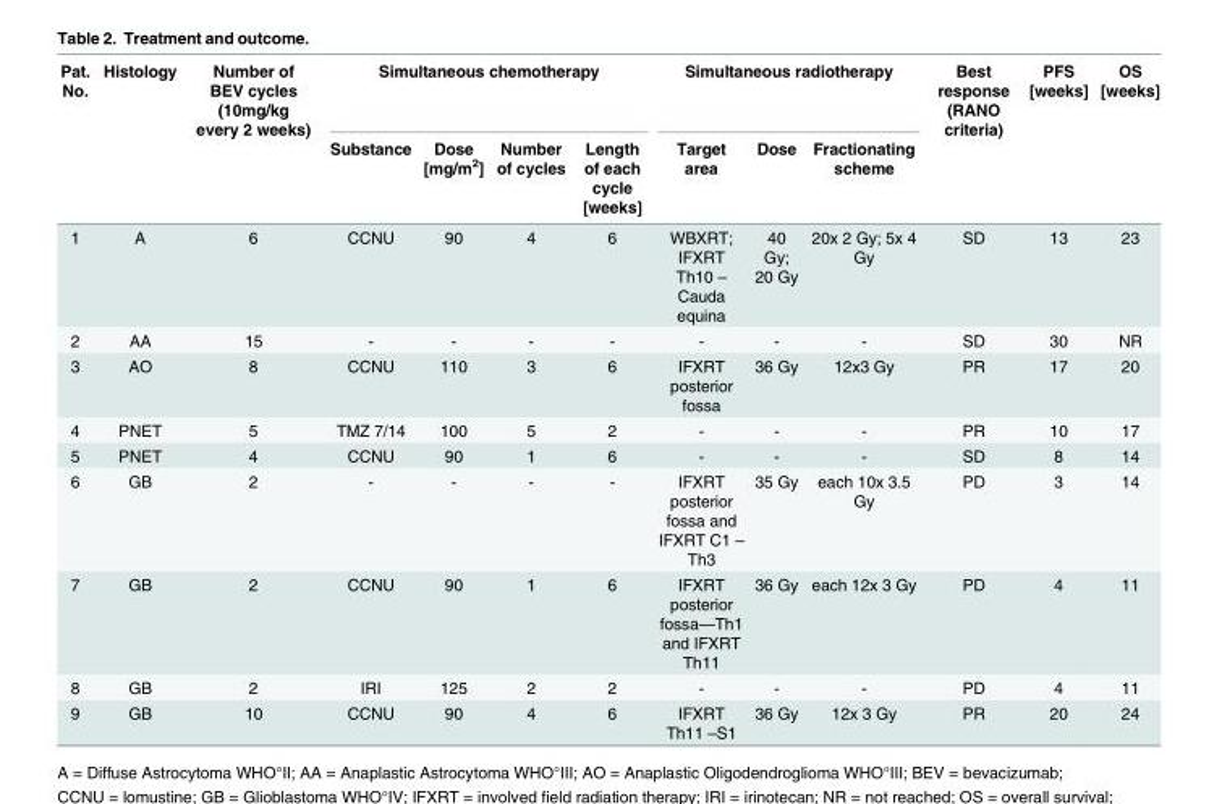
<table><thead><tr><td rowspan="2">Pat. No.</td><td rowspan="2">Histology</td><td rowspan="2">Number of BEV cycles (10mg/kg every 2 weeks)</td><td colspan="4">Simultaneous chemotherapy</td><td colspan="3">Simultaneous radiotherapy</td><td rowspan="2">Best response (RANO criteria)</td><td rowspan="2">PFS [weeks]</td><td rowspan="2">OS [weeks]</td></tr><tr><td>Substance</td><td>Dose [mg/m<sup>2</sup>]</td><td>Number of cycles</td><td>Length of each cycle [weeks]</td><td>Target area</td><td>Dose</td><td>Fractionating scheme</td></tr></thead><tbody><tr><td>1</td><td>A</td><td>6</td><td>CCNU</td><td>90</td><td>4</td><td>6</td><td>WBXRT; IFXRT Th10 – Cauda equina</td><td>40 Gy; 20 Gy</td><td>20x 2 Gy; 5x 4 Gy</td><td>SD</td><td>13</td><td>23</td></tr><tr><td>2</td><td>AA</td><td>15</td><td>-</td><td>-</td><td>-</td><td>-</td><td>-</td><td>-</td><td>-</td><td>SD</td><td>30</td><td>NR</td></tr><tr><td>3</td><td>AO</td><td>8</td><td>CCNU</td><td>110</td><td>3</td><td>6</td><td>IFXRT posterior fossa</td><td>36 Gy</td><td>12x3 Gy</td><td>PR</td><td>17</td><td>20</td></tr><tr><td>4</td><td>PNET</td><td>5</td><td>TMZ 7/14</td><td>100</td><td>5</td><td>2</td><td>-</td><td>-</td><td>-</td><td>PR</td><td>10</td><td>17</td></tr><tr><td>5</td><td>PNET</td><td>4</td><td>CCNU</td><td>90</td><td>1</td><td>6</td><td>-</td><td>-</td><td>-</td><td>SD</td><td>8</td><td>14</td></tr><tr><td>6</td><td>GB</td><td>2</td><td>-</td><td>-</td><td>-</td><td>-</td><td>IFXRT posterior fossa and IFXRT C1 – Th3</td><td>35 Gy</td><td>each 10x 3.5 Gy</td><td>PD</td><td>3</td><td>14</td></tr><tr><td>7</td><td>GB</td><td>2</td><td>CCNU</td><td>90</td><td>1</td><td>6</td><td>IFXRT posterior fossa—Th1 and IFXRT Th11</td><td>36 Gy</td><td>each 12x 3 Gy</td><td>PD</td><td>4</td><td>11</td></tr><tr><td>8</td><td>GB</td><td>2</td><td>IRI</td><td>125</td><td>2</td><td>2</td><td>-</td><td>-</td><td>-</td><td>PD</td><td>4</td><td>11</td></tr><tr><td>9</td><td>GB</td><td>10</td><td>CCNU</td><td>90</td><td>4</td><td>6</td><td>IFXRT Th11 –S1</td><td>36 Gy</td><td>12x 3 Gy</td><td>PR</td><td>20</td><td>24</td></tr></tbody></table>